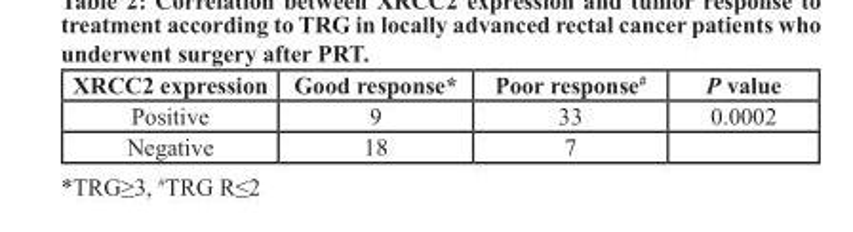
<table><thead><tr><td>XRCC2 expression</td><td>Good response*</td><td>Poor response<sup>#</sup></td><td>P value</td></tr></thead><tbody><tr><td>Positive</td><td>9</td><td>33</td><td>0.0002</td></tr><tr><td>Negative</td><td>18</td><td>7</td><td></td></tr></tbody></table>